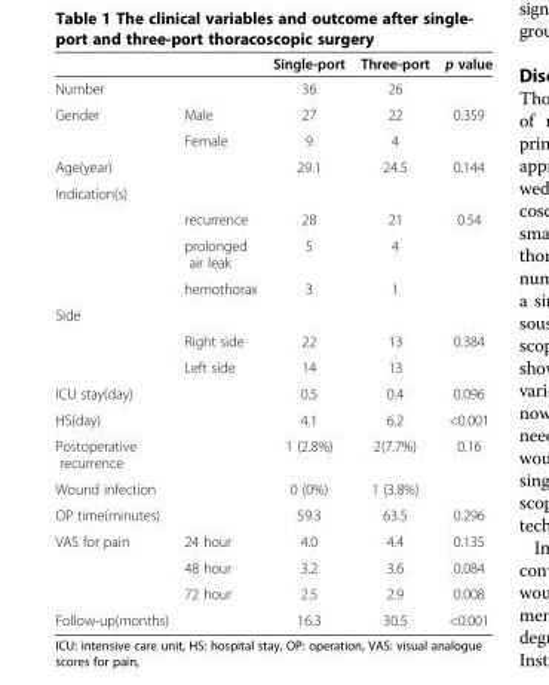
<table><thead><tr><td></td><td></td><td>Single-port</td><td>Three-port</td><td>p value</td></tr></thead><tbody><tr><td>Number</td><td></td><td>36</td><td>26</td><td></td></tr><tr><td rowspan="2">Gender</td><td>Male</td><td>27</td><td>22</td><td>0.359</td></tr><tr><td>Female</td><td>9</td><td>4</td><td></td></tr><tr><td>Age(year)</td><td></td><td>29.1</td><td>24.5</td><td>0.144</td></tr><tr><td colspan="5">Indication(s)</td></tr><tr><td></td><td>recurrence</td><td>28</td><td>21</td><td>0.54</td></tr><tr><td></td><td>prolonged air leak</td><td>5</td><td>4</td><td></td></tr><tr><td></td><td>hemothorax</td><td>3</td><td>1</td><td></td></tr><tr><td colspan="5">Side</td></tr><tr><td></td><td>Right side</td><td>22</td><td>13</td><td>0.384</td></tr><tr><td></td><td>Left side</td><td>14</td><td>13</td><td></td></tr><tr><td>ICU stay(day)</td><td></td><td>0.5</td><td>0.4</td><td>0.096</td></tr><tr><td>HS(day)</td><td></td><td>4.1</td><td>6.2</td><td>&lt;0.001</td></tr><tr><td>Postoperative recurrence</td><td></td><td>1 (2.8%)</td><td>2(7.7%)</td><td>0.16</td></tr><tr><td>Wound infection</td><td></td><td>0 (0%)</td><td>1 (3.8%)</td><td></td></tr><tr><td>OP time(minutes)</td><td></td><td>59.3</td><td>63.5</td><td>0.296</td></tr><tr><td rowspan="3">VAS for pain</td><td>24 hour</td><td>4.0</td><td>4.4</td><td>0.135</td></tr><tr><td>48 hour</td><td>3.2</td><td>3.6</td><td>0.084</td></tr><tr><td>72 hour</td><td>2.5</td><td>2.9</td><td>0.008</td></tr><tr><td>Follow-up(months)</td><td></td><td>16.3</td><td>30.5</td><td>&lt;0.001</td></tr></tbody></table>